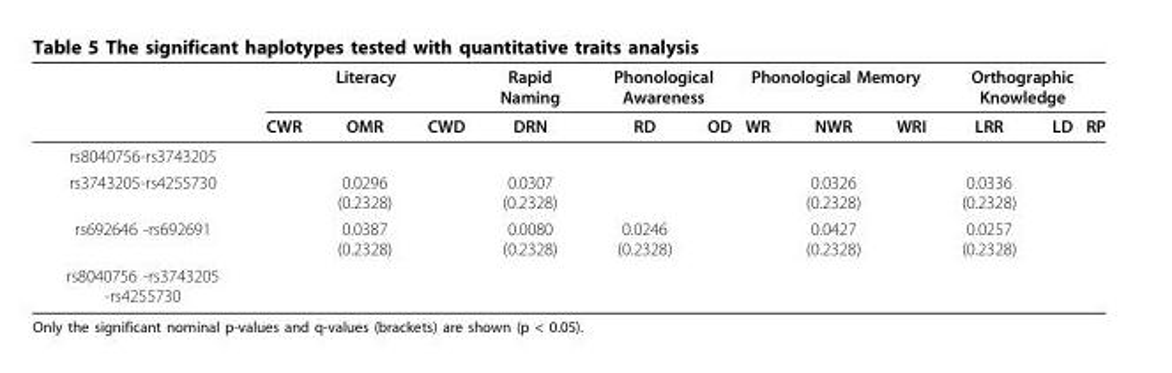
<table><thead><tr><td rowspan="2"></td><td colspan="3">Literacy</td><td rowspan="2">Rapid Naming DRN</td><td colspan="2">Phonological Awareness</td><td colspan="3">Phonological Memory</td><td colspan="3">Orthographic Knowledge</td></tr><tr><td>CWR</td><td>OMR</td><td>CWD</td><td>RD</td><td>OD</td><td>WR</td><td>NWR</td><td>WRI</td><td>LRR</td><td>LD</td><td>RP</td></tr></thead><tbody><tr><td colspan="13">rs8040756-rs3743205</td></tr><tr><td>rs3743205-rs4255730</td><td></td><td>0.0296 (0.2328)</td><td></td><td>0.0307 (0.2328)</td><td></td><td></td><td></td><td>0.0326 (0.2328)</td><td></td><td>0.0336 (0.2328)</td><td></td><td></td></tr><tr><td>rs692646 -rs692691</td><td></td><td>0.0387 (0.2328)</td><td></td><td>0.0080 (0.2328)</td><td>0.0246 (0.2328)</td><td></td><td></td><td>0.0427 (0.2328)</td><td></td><td>0.0257 (0.2328)</td><td></td><td></td></tr><tr><td>rs8040756 -rs3743205 -rs4255730</td><td></td><td></td><td></td><td></td><td></td><td></td><td></td><td></td><td></td><td></td><td></td><td></td></tr></tbody></table>